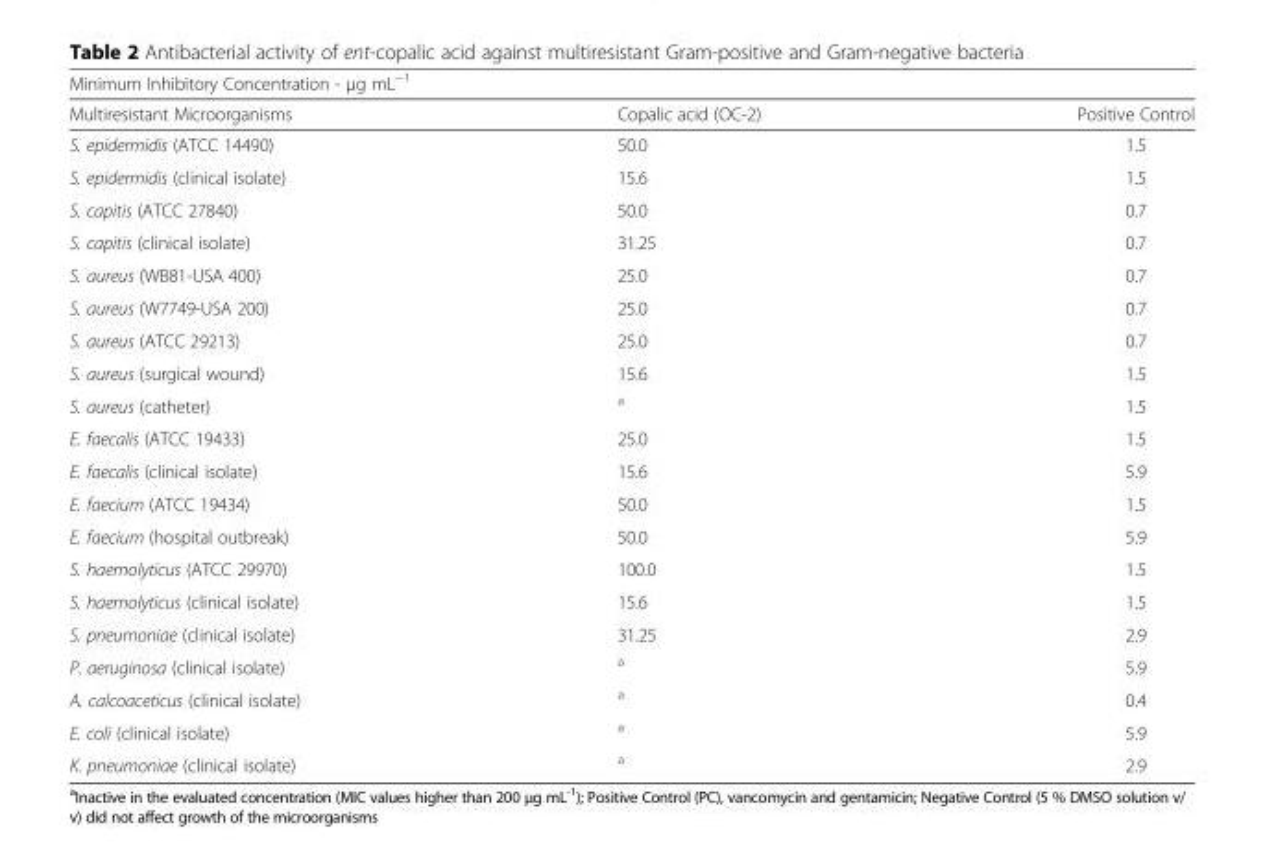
<table><thead><tr><td colspan="3">Minimum Inhibitory Concentration - µg mL<sup>−1</sup></td></tr><tr><td>Multiresistant Microorganisms</td><td>Copalic acid (OC-2)</td><td>Positive Control</td></tr></thead><tbody><tr><td>S. epidermidis (ATCC 14490)</td><td>50.0</td><td>1.5</td></tr><tr><td>S. epidermidis (clinical isolate)</td><td>15.6</td><td>1.5</td></tr><tr><td>S. capitis (ATCC 27840)</td><td>50.0</td><td>0.7</td></tr><tr><td>S. capitis (clinical isolate)</td><td>31.25</td><td>0.7</td></tr><tr><td>S. aureus (WB81-USA 400)</td><td>25.0</td><td>0.7</td></tr><tr><td>S. aureus (W7749-USA 200)</td><td>25.0</td><td>0.7</td></tr><tr><td>S. aureus (ATCC 29213)</td><td>25.0</td><td>0.7</td></tr><tr><td>S. aureus (surgical wound)</td><td>15.6</td><td>1.5</td></tr><tr><td>S. aureus (catheter)</td><td><sup>a</sup></td><td>1.5</td></tr><tr><td>E. faecalis (ATCC 19433)</td><td>25.0</td><td>1.5</td></tr><tr><td>E. faecalis (clinical isolate)</td><td>15.6</td><td>5.9</td></tr><tr><td>E. faecium (ATCC 19434)</td><td>50.0</td><td>1.5</td></tr><tr><td>E. faecium (hospital outbreak)</td><td>50.0</td><td>5.9</td></tr><tr><td>S. haemolyticus (ATCC 29970)</td><td>100.0</td><td>1.5</td></tr><tr><td>S. haemolyticus (clinical isolate)</td><td>15.6</td><td>1.5</td></tr><tr><td>S. pneumoniae (clinical isolate)</td><td>31.25</td><td>2.9</td></tr><tr><td>P. aeruginosa (clinical isolate)</td><td><sup>a</sup></td><td>5.9</td></tr><tr><td>A. calcoaceticus (clinical isolate)</td><td><sup>a</sup></td><td>0.4</td></tr><tr><td>E. coli (clinical isolate)</td><td><sup>a</sup></td><td>5.9</td></tr><tr><td>K. pneumoniae (clinical isolate)</td><td><sup>a</sup></td><td>2.9</td></tr></tbody></table>